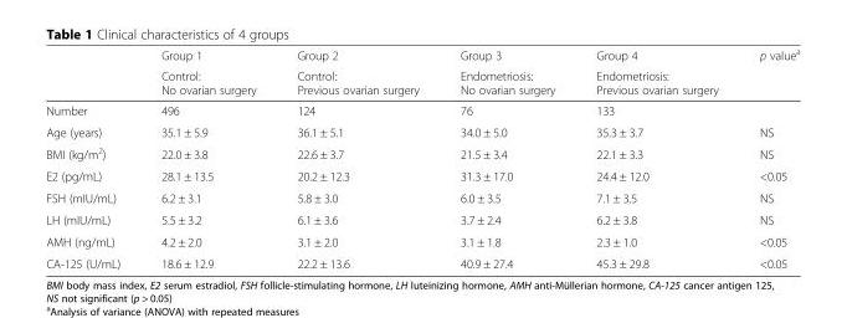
<table><thead><tr><td rowspan="2"></td><td rowspan="2">Group 1 Control: No ovarian surgery</td><td rowspan="2">Group 2 Control: Previous ovarian surgery</td><td rowspan="2">Group 3 Endometriosis: No ovarian surgery</td><td rowspan="2">Group 4 Endometriosis: Previous ovarian surgery</td><td rowspan="2">p value<sup>a</sup></td></tr><tr></tr></thead><tbody><tr><td>Number</td><td>496</td><td>124</td><td>76</td><td>133</td><td></td></tr><tr><td>Age (years)</td><td>35.1 ± 5.9</td><td>36.1 ± 5.1</td><td>34.0 ± 5.0</td><td>35.3 ± 3.7</td><td>NS</td></tr><tr><td>BMI (kg/m<sup>2</sup>)</td><td>22.0 ± 3.8</td><td>22.6 ± 3.7</td><td>21.5 ± 3.4</td><td>22.1 ± 3.3</td><td>NS</td></tr><tr><td>E2 (pg/mL)</td><td>28.1 ± 13.5</td><td>20.2 ± 12.3</td><td>31.3 ± 17.0</td><td>24.4 ± 12.0</td><td>&lt;0.05</td></tr><tr><td>FSH (mIU/mL)</td><td>6.2 ± 3.1</td><td>5.8 ± 3.0</td><td>6.0 ± 3.5</td><td>7.1 ± 3.5</td><td>NS</td></tr><tr><td>LH (mIU/mL)</td><td>5.5 ± 3.2</td><td>6.1 ± 3.6</td><td>3.7 ± 2.4</td><td>6.2 ± 3.8</td><td>NS</td></tr><tr><td>AMH (ng/mL)</td><td>4.2 ± 2.0</td><td>3.1 ± 2.0</td><td>3.1 ± 1.8</td><td>2.3 ± 1.0</td><td>&lt;0.05</td></tr><tr><td>CA-125 (U/mL)</td><td>18.6 ± 12.9</td><td>22.2 ± 13.6</td><td>40.9 ± 27.4</td><td>45.3 ± 29.8</td><td>&lt;0.05</td></tr></tbody></table>